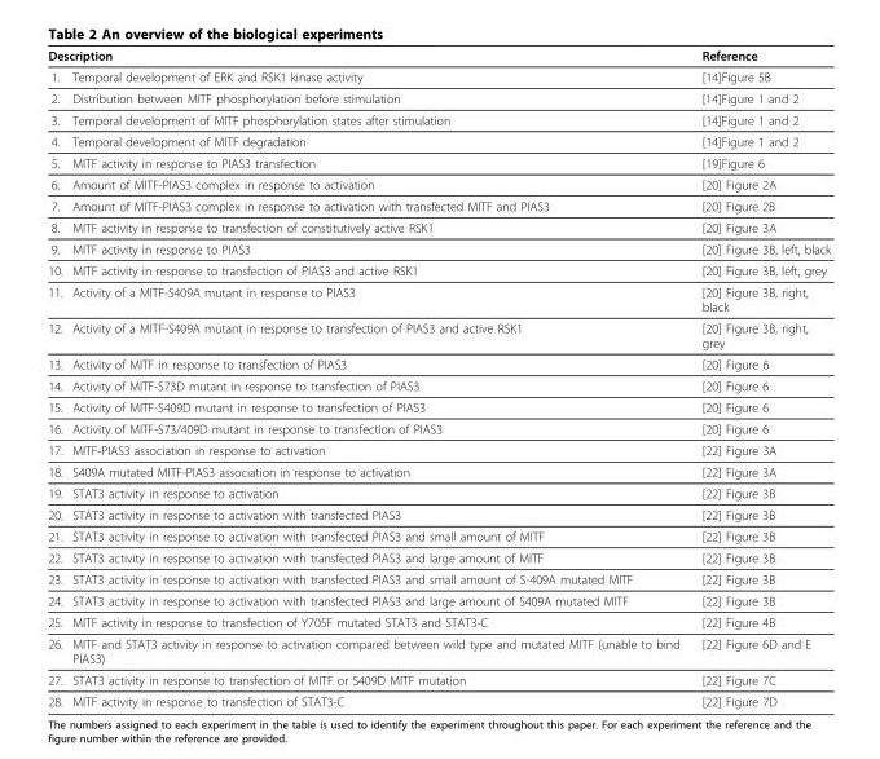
<table><thead><tr><td colspan="2">Description</td><td rowspan="2">Reference [14]Figure 5B</td></tr><tr><td>1.</td><td>Temporal development of ERK and RSK1 kinase activity</td></tr></thead><tbody><tr><td>2.</td><td>Distribution between MITF phosphorylation before stimulation</td><td>[14]Figure 1 and 2</td></tr><tr><td>3.</td><td>Temporal development of MITF phosphorylation states after stimulation</td><td>[14]Figure 1 and 2</td></tr><tr><td>4.</td><td>Temporal development of MITF degradation</td><td>[14]Figure 1 and 2</td></tr><tr><td>5.</td><td>MITF activity in response to PIAS3 transfection</td><td>[19]Figure 6</td></tr><tr><td>6.</td><td>Amount of MITF-PIAS3 complex in response to activation</td><td>[20] Figure 2A</td></tr><tr><td>7.</td><td>Amount of MITF-PIAS3 complex in response to activation with transfected MITF and PIAS3</td><td>[20] Figure 2B</td></tr><tr><td>8.</td><td>MITF activity in response to transfection of constitutively active RSK1</td><td>[20] Figure 3A</td></tr><tr><td>9.</td><td>MITF activity in response to PIAS3</td><td>[20] Figure 3B, left, black</td></tr><tr><td>10.</td><td>MITF activity in response to transfection of PIAS3 and active RSK1</td><td>[20] Figure 3B, left, grey</td></tr><tr><td>11.</td><td>Activity of a MITF-S409A mutant in response to PIAS3</td><td>[20] Figure 3B, right, black</td></tr><tr><td>12.</td><td>Activity of a MITF-S409A mutant in response to transfection of PIAS3 and active RSK1</td><td>[20] Figure 3B, right, grey</td></tr><tr><td>13.</td><td>Activity of MITF in response to transfection of PIAS3</td><td>[20] Figure 6</td></tr><tr><td>14.</td><td>Activity of MITF-S73D mutant in response to transfection of PIAS3</td><td>[20] Figure 6</td></tr><tr><td>15.</td><td>Activity of MITF-S409D mutant in response to transfection of PIAS3</td><td>[20] Figure 6</td></tr><tr><td>16.</td><td>Activity of MITF-S73/409D mutant in response to transfection of PIAS3</td><td>[20] Figure 6</td></tr><tr><td>17.</td><td>MITF-PIAS3 association in response to activation</td><td>[22] Figure 3A</td></tr><tr><td>18.</td><td>S409A mutated MITF-PIAS3 association in response to activation</td><td>[22] Figure 3A</td></tr><tr><td>19.</td><td>STAT3 activity in response to activation</td><td>[22] Figure 3B</td></tr><tr><td>20.</td><td>STAT3 activity in response to activation with transfected PIAS3</td><td>[22] Figure 3B</td></tr><tr><td>21.</td><td>STAT3 activity in response to activation with transfected PIAS3 and small amount of MITF</td><td>[22] Figure 3B</td></tr><tr><td>22.</td><td>STAT3 activity in response to activation with transfected PIAS3 and large amount of MITF</td><td>[22] Figure 3B</td></tr><tr><td>23.</td><td>STAT3 activity in response to activation with transfected PIAS3 and small amount of S-409A mutated MITF</td><td>[22] Figure 3B</td></tr><tr><td>24.</td><td>STAT3 activity in response to activation with transfected PIAS3 and large amount of S409A mutated MITF</td><td>[22] Figure 3B</td></tr><tr><td>25.</td><td>MITF activity in response to transfection of Y705F mutated STAT3 and STAT3-C</td><td>[22] Figure 4B</td></tr><tr><td>26.</td><td>MITF and STAT3 activity in response to activation compared between wild type and mutated MITF (unable to bind PIAS3)</td><td>[22] Figure 6D and E</td></tr><tr><td>27.</td><td>STAT3 activity in response to transfection of MITF or S409D MITF mutation</td><td>[22] Figure 7C</td></tr><tr><td>28.</td><td>MITF activity in response to transfection of STAT3-C</td><td>[22] Figure 7D</td></tr></tbody></table>